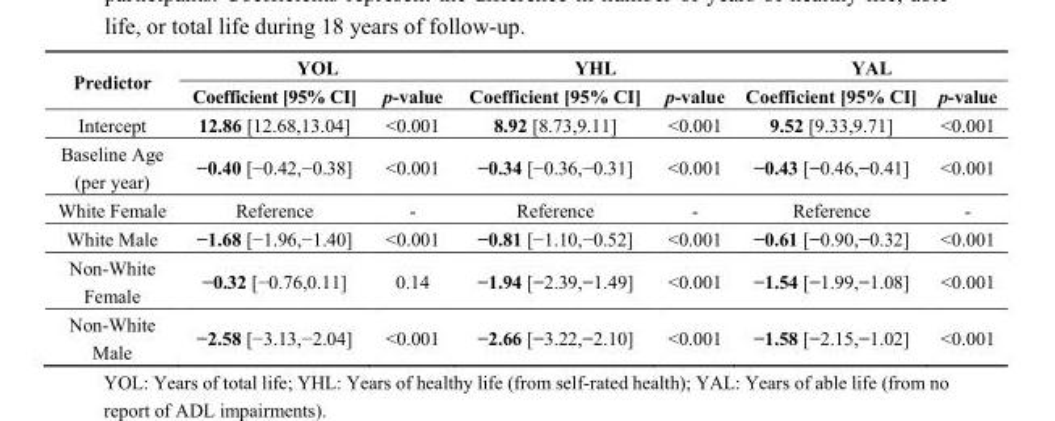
<table><thead><tr><td rowspan="2">Predictor</td><td colspan="2">YOL</td><td colspan="2">YHL</td><td colspan="2">YAL</td></tr><tr><td>Coefficient [95% CI]</td><td>p-value</td><td>Coefficient [95% CI]</td><td>p-value</td><td>Coefficient [95% CI]</td><td>p-value</td></tr></thead><tbody><tr><td>Intercept</td><td>12.86 [12.68,13.04]</td><td>&lt;0.001</td><td>8.92 [8.73,9.11]</td><td>&lt;0.001</td><td>9.52 [9.33,9.71]</td><td>&lt;0.001</td></tr><tr><td>Baseline Age (per year)</td><td>−0.40 [−0.42,−0.38]</td><td>&lt;0.001</td><td>−0.34 [−0.36,−0.31]</td><td>&lt;0.001</td><td>−0.43 [−0.46,−0.41]</td><td>&lt;0.001</td></tr><tr><td>White Female</td><td>Reference</td><td>-</td><td>Reference</td><td>-</td><td>Reference</td><td>-</td></tr><tr><td>White Male</td><td>−1.68 [−1.96,−1.40]</td><td>&lt;0.001</td><td>−0.81 [−1.10,−0.52]</td><td>&lt;0.001</td><td>−0.61 [−0.90,−0.32]</td><td>&lt;0.001</td></tr><tr><td>Non-White Female</td><td>−0.32 [−0.76,0.11]</td><td>0.14</td><td>−1.94 [−2.39,−1.49]</td><td>&lt;0.001</td><td>−1.54 [−1.99,−1.08]</td><td>&lt;0.001</td></tr><tr><td>Non-White Male</td><td>−2.58 [−3.13,−2.04]</td><td>&lt;0.001</td><td>−2.66 [−3.22,−2.10]</td><td>&lt;0.001</td><td>−1.58 [−2.15,−1.02]</td><td>&lt;0.001</td></tr></tbody></table>